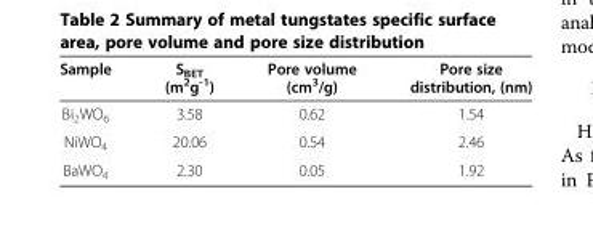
<table><thead><tr><td>Sample</td><td>S<sub>BET</sub> (m<sup>2</sup>g<sup>-1</sup>)</td><td>Pore volume (cm<sup>3</sup>/g)</td><td>Pore size distribution, (nm)</td></tr></thead><tbody><tr><td>Bi<sub>2</sub>WO<sub>6</sub></td><td>3.58</td><td>0.62</td><td>1.54</td></tr><tr><td>NiWO<sub>4</sub></td><td>20.06</td><td>0.54</td><td>2.46</td></tr><tr><td>BaWO<sub>4</sub></td><td>2.30</td><td>0.05</td><td>1.92</td></tr></tbody></table>